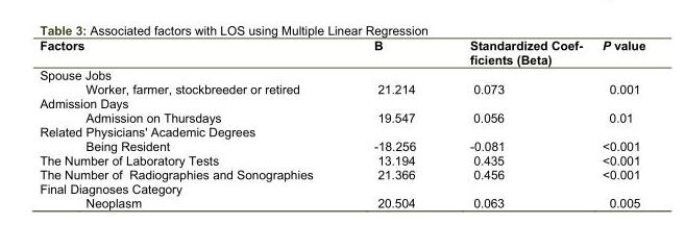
<table><thead><tr><td>Factors</td><td>B</td><td>Standardized Coef- ficients (Beta)</td><td>P value</td></tr></thead><tbody><tr><td colspan="4">Spouse Jobs</td></tr><tr><td>Worker, farmer, stockbreeder or retired</td><td>21.214</td><td>0.073</td><td>0.001</td></tr><tr><td colspan="4">Admission Days</td></tr><tr><td>Admission on Thursdays</td><td>19.547</td><td>0.056</td><td>0.01</td></tr><tr><td colspan="4">Related Physicians&#x27; Academic Degrees</td></tr><tr><td>Being Resident</td><td>-18.256</td><td>-0.081</td><td>&lt;0.001</td></tr><tr><td>The Number of Laboratory Tests</td><td>13.194</td><td>0.435</td><td>&lt;0.001</td></tr><tr><td>The Number of Radiographies and Sonographies</td><td>21.366</td><td>0.456</td><td>&lt;0.001</td></tr><tr><td colspan="4">Final Diagnoses Category</td></tr><tr><td>Neoplasm</td><td>20.504</td><td>0.063</td><td>0.005</td></tr></tbody></table>